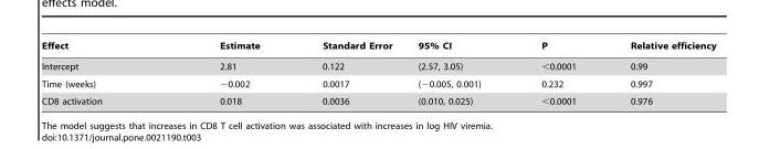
<table><thead><tr><td>Effect</td><td>Estimate</td><td>Standard Error</td><td>95% CI</td><td>P</td><td>Relative efficiency</td></tr></thead><tbody><tr><td>Intercept</td><td>2.81</td><td>0.122</td><td>(2.57, 3.05)</td><td>&lt;0.0001</td><td>0.99</td></tr><tr><td>Time (weeks)</td><td>−0.002</td><td>0.0017</td><td>(−0.005, 0.001)</td><td>0.232</td><td>0.997</td></tr><tr><td>CD8 activation</td><td>0.018</td><td>0.0036</td><td>(0.010, 0.025)</td><td>&lt;0.0001</td><td>0.976</td></tr></tbody></table>